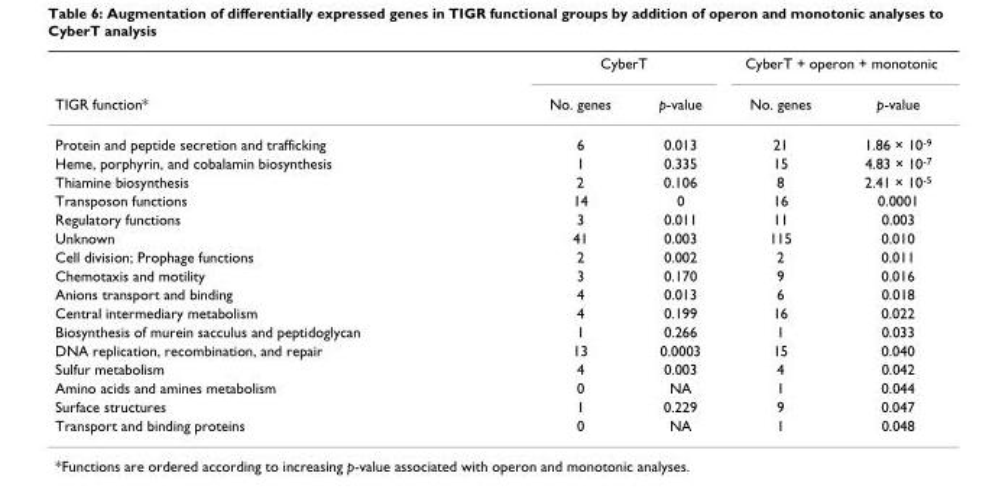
<table><thead><tr><td rowspan="2">TIGR function*</td><td colspan="2">CyberT</td><td colspan="2">CyberT + operon + monotonic</td></tr><tr><td>No. genes</td><td>p-value</td><td>No. genes</td><td>p-value</td></tr></thead><tbody><tr><td>Protein and peptide secretion and trafficking</td><td>6</td><td>0.013</td><td>21</td><td>1.86 × 10<sup>-9</sup></td></tr><tr><td>Heme, porphyrin, and cobalamin biosynthesis</td><td>1</td><td>0.335</td><td>15</td><td>4.83 × 10<sup>-7</sup></td></tr><tr><td>Thiamine biosynthesis</td><td>2</td><td>0.106</td><td>8</td><td>2.41 × 10<sup>-5</sup></td></tr><tr><td>Transposon functions</td><td>14</td><td>0</td><td>16</td><td>0.0001</td></tr><tr><td>Regulatory functions</td><td>3</td><td>0.011</td><td>11</td><td>0.003</td></tr><tr><td>Unknown</td><td>41</td><td>0.003</td><td>115</td><td>0.010</td></tr><tr><td>Cell division; Prophage functions</td><td>2</td><td>0.002</td><td>2</td><td>0.011</td></tr><tr><td>Chemotaxis and motility</td><td>3</td><td>0.170</td><td>9</td><td>0.016</td></tr><tr><td>Anions transport and binding</td><td>4</td><td>0.013</td><td>6</td><td>0.018</td></tr><tr><td>Central intermediary metabolism</td><td>4</td><td>0.199</td><td>16</td><td>0.022</td></tr><tr><td>Biosynthesis of murein sacculus and peptidoglycan</td><td>1</td><td>0.266</td><td>1</td><td>0.033</td></tr><tr><td>DNA replication, recombination, and repair</td><td>13</td><td>0.0003</td><td>15</td><td>0.040</td></tr><tr><td>Sulfur metabolism</td><td>4</td><td>0.003</td><td>4</td><td>0.042</td></tr><tr><td>Amino acids and amines metabolism</td><td>0</td><td>NA</td><td>1</td><td>0.044</td></tr><tr><td>Surface structures</td><td>1</td><td>0.229</td><td>9</td><td>0.047</td></tr><tr><td>Transport and binding proteins</td><td>0</td><td>NA</td><td>1</td><td>0.048</td></tr></tbody></table>